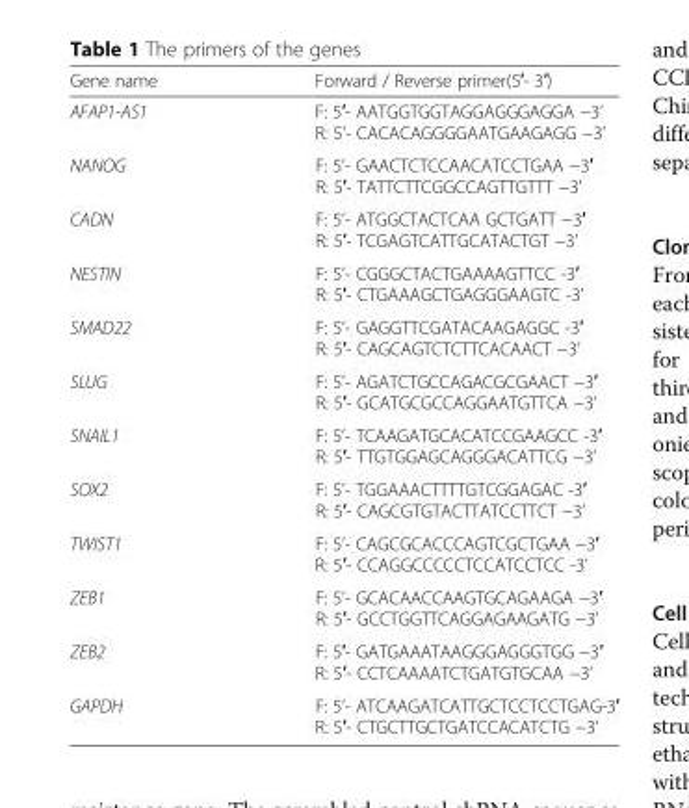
<table><thead><tr><td>Gene name</td><td>Forward / Reverse primer(5′- 3′)</td></tr></thead><tbody><tr><td>AFAP1-AS1</td><td>F: 5′- AATGGTGGTAGGAGGGAGGA −3’ R: 5’- CACACAGGGGAATGAAGAGG −3’</td></tr><tr><td>NANOG</td><td>F: 5’- GAACTCTCCAACATCCTGAA −3′ R: 5′- TATTCTTCGGCCAGTTGTTT −3’</td></tr><tr><td>CADN</td><td>F: 5’- ATGGCTACTCAA GCTGATT −3′ R: 5′- TCGAGTCATTGCATACTGT −3’</td></tr><tr><td>NESTIN</td><td>F: 5’- CGGGCTACTGAAAAGTTCC -3′ R: 5′- CTGAAAGCTGAGGGAAGTC -3’</td></tr><tr><td>SMAD22</td><td>F: 5’- GAGGTTCGATACAAGAGGC -3′ R: 5′- CAGCAGTCTCTTCACAACT −3’</td></tr><tr><td>SLUG</td><td>F: 5’- AGATCTGCCAGACGCGAACT −3′ R: 5′- GCATGCGCCAGGAATGTTCA −3’</td></tr><tr><td>SNAIL1</td><td>F: 5’- TCAAGATGCACATCCGAAGCC -3′ R: 5′- TTGTGGAGCAGGGACATTCG −3’</td></tr><tr><td>SOX2</td><td>F: 5’- TGGAAACTTTTGTCGGAGAC -3′ R: 5′- CAGCGTGTACTTATCCTTCT −3’</td></tr><tr><td>TWIST1</td><td>F: 5’- CAGCGCACCCAGTCGCTGAA −3′ R: 5′- CCAGGCCCCCTCCATCCTCC -3’</td></tr><tr><td>ZEB1</td><td>F: 5’- GCACAACCAAGTGCAGAAGA −3′ R: 5′- GCCTGGTTCAGGAGAAGATG −3’</td></tr><tr><td>ZEB2</td><td>F: 5′- GATGAAATAAGGGAGGGTGG −3′ R: 5′- CCTCAAAATCTGATGTGCAA −3’</td></tr><tr><td>GAPDH</td><td>F: 5’- ATCAAGATCATTGCTCCTCCTGAG-3′ R: 5′- CTGCTTGCTGATCCACATCTG −3’</td></tr></tbody></table>